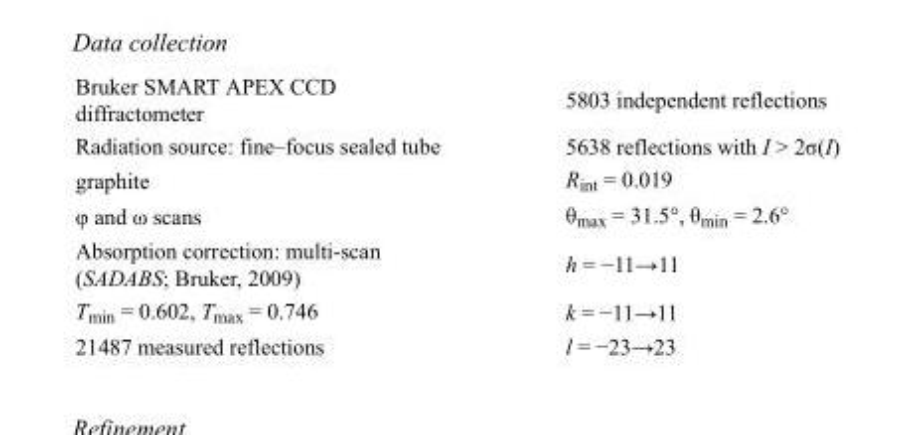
<table><tbody><tr><td>Bruker SMART APEX CCD diffractometer</td><td>5803 independent reflections</td></tr><tr><td>Radiation source: fine–focus sealed tube</td><td>5638 reflections with I &gt; 2σ(I)</td></tr><tr><td>graphite</td><td>R<sub>int</sub> = 0.019</td></tr><tr><td>φ and ω scans</td><td>θ<sub>max</sub> = 31.5°, θ<sub>min</sub> = 2.6°</td></tr><tr><td>Absorption correction: multi-scan (SADABS; Bruker, 2009)</td><td>h = −11→11</td></tr><tr><td>T<sub>min</sub> = 0.602, T<sub>max</sub> = 0.746</td><td>k = −11→11</td></tr><tr><td>21487 measured reflections</td><td>l = −23→23</td></tr></tbody></table>